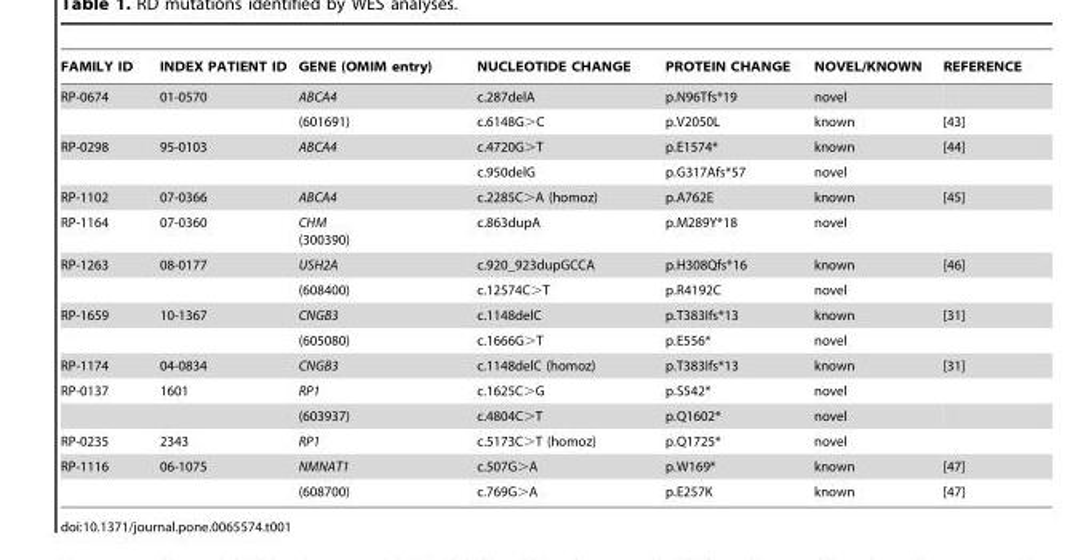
<table><thead><tr><td>FAMILY ID</td><td>INDEX PATIENT ID</td><td>GENE (OMIM entry)</td><td>NUCLEOTIDE CHANGE</td><td>PROTEIN CHANGE</td><td>NOVEL/KNOWN</td><td>REFERENCE</td></tr></thead><tbody><tr><td rowspan="2">RP-0674</td><td>01-0570</td><td>ABCA4</td><td>c.287delA</td><td>p.N96Tfs*19</td><td>novel</td><td></td></tr><tr><td></td><td>(601691)</td><td>c.6148G&gt;C</td><td>p.V2050L</td><td>known</td><td>[43]</td></tr><tr><td rowspan="2">RP-0298</td><td>95-0103</td><td>ABCA4</td><td>c.4720G&gt;T</td><td>p.E1574*</td><td>known</td><td>[44]</td></tr><tr><td></td><td></td><td>c.950delG</td><td>p.G317Afs*57</td><td>novel</td><td></td></tr><tr><td>RP-1102</td><td>07-0366</td><td>ABCA4</td><td>c.2285C&gt;A (homoz)</td><td>p.A762E</td><td>known</td><td>[45]</td></tr><tr><td>RP-1164</td><td>07-0360</td><td>CHM (300390)</td><td>c.863dupA</td><td>p.M289Y*18</td><td>novel</td><td></td></tr><tr><td rowspan="2">RP-1263</td><td>08-0177</td><td>USH2A</td><td>c.920_923dupGCCA</td><td>p.H308Qfs*16</td><td>known</td><td>[46]</td></tr><tr><td></td><td>(608400)</td><td>c.12574C&gt;T</td><td>p.R4192C</td><td>novel</td><td></td></tr><tr><td rowspan="2">RP-1659</td><td>10-1367</td><td>CNGB3</td><td>c.1148delC</td><td>p.T383Ifs*13</td><td>known</td><td>[31]</td></tr><tr><td></td><td>(605080)</td><td>c.1666G&gt;T</td><td>p.E556*</td><td>novel</td><td></td></tr><tr><td>RP-1174</td><td>04-0834</td><td>CNGB3</td><td>c.1148delC (homoz)</td><td>p.T383Ifs*13</td><td>known</td><td>[31]</td></tr><tr><td rowspan="2">RP-0137</td><td>1601</td><td>RP1</td><td>c.1625C&gt;G</td><td>p.S542*</td><td>novel</td><td></td></tr><tr><td></td><td>(603937)</td><td>c.4804C&gt;T</td><td>p.Q1602*</td><td>novel</td><td></td></tr><tr><td>RP-0235</td><td>2343</td><td>RP1</td><td>c.5173C&gt;T (homoz)</td><td>p.Q1725*</td><td>novel</td><td></td></tr><tr><td rowspan="2">RP-1116</td><td>06-1075</td><td>NMNAT1</td><td>c.507G&gt;A</td><td>p.W169*</td><td>known</td><td>[47]</td></tr><tr><td></td><td>(608700)</td><td>c.769G&gt;A</td><td>p.E257K</td><td>known</td><td>[47]</td></tr></tbody></table>